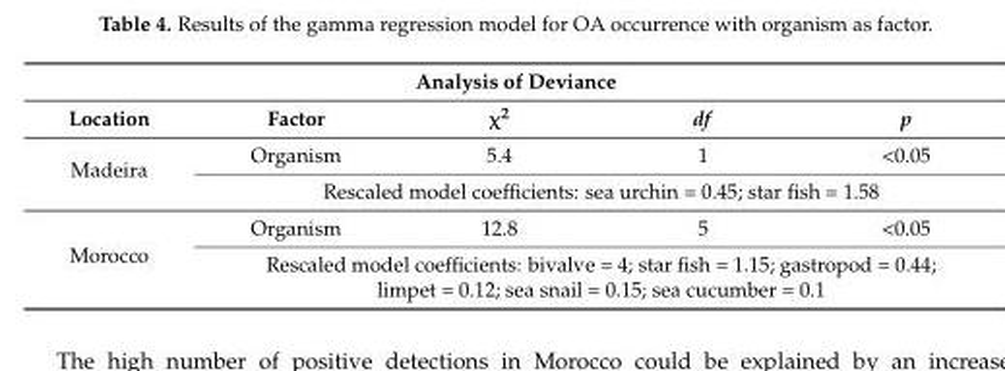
<table><thead><tr><td colspan="5">Analysis of Deviance</td></tr><tr><td>Location</td><td>Factor</td><td>χ<sup>2</sup></td><td>df</td><td>p</td></tr></thead><tbody><tr><td rowspan="2">Madeira</td><td>Organism</td><td>5.4</td><td>1</td><td>&lt;0.05</td></tr><tr><td colspan="4">Rescaled model coefficients: sea urchin = 0.45; star fish = 1.58</td></tr><tr><td rowspan="2">Morocco</td><td>Organism</td><td>12.8</td><td>5</td><td>&lt;0.05</td></tr><tr><td colspan="4">Rescaled model coefficients: bivalve = 4; star fish = 1.15; gastropod = 0.44; limpet = 0.12; sea snail = 0.15; sea cucumber = 0.1</td></tr></tbody></table>